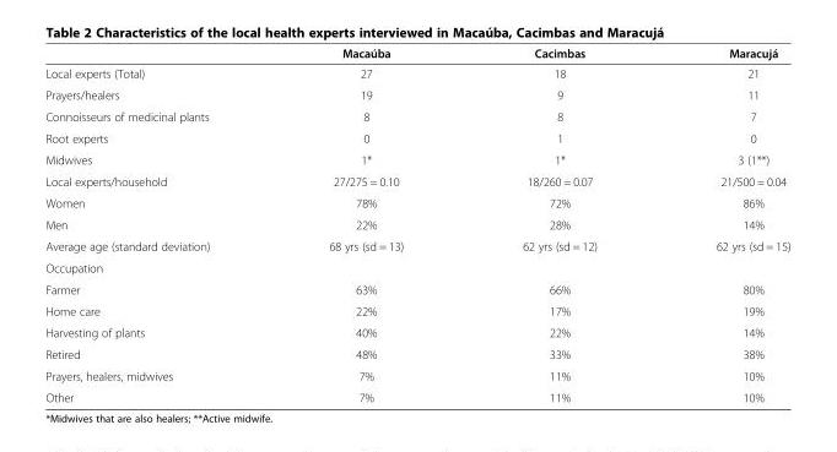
<table><thead><tr><td></td><td>Macaúba</td><td>Cacimbas</td><td>Maracujá</td></tr></thead><tbody><tr><td>Local experts (Total)</td><td>27</td><td>18</td><td>21</td></tr><tr><td>Prayers/healers</td><td>19</td><td>9</td><td>11</td></tr><tr><td>Connoisseurs of medicinal plants</td><td>8</td><td>8</td><td>7</td></tr><tr><td>Root experts</td><td>0</td><td>1</td><td>0</td></tr><tr><td>Midwives</td><td>1*</td><td>1*</td><td>3 (1**)</td></tr><tr><td>Local experts/household</td><td>27/275 = 0.10</td><td>18/260 = 0.07</td><td>21/500 = 0.04</td></tr><tr><td>Women</td><td>78%</td><td>72%</td><td>86%</td></tr><tr><td>Men</td><td>22%</td><td>28%</td><td>14%</td></tr><tr><td>Average age (standard deviation)</td><td>68 yrs (sd = 13)</td><td>62 yrs (sd = 12)</td><td>62 yrs (sd = 15)</td></tr><tr><td colspan="4">Occupation</td></tr><tr><td>Farmer</td><td>63%</td><td>66%</td><td>80%</td></tr><tr><td>Home care</td><td>22%</td><td>17%</td><td>19%</td></tr><tr><td>Harvesting of plants</td><td>40%</td><td>22%</td><td>14%</td></tr><tr><td>Retired</td><td>48%</td><td>33%</td><td>38%</td></tr><tr><td>Prayers, healers, midwives</td><td>7%</td><td>11%</td><td>10%</td></tr><tr><td>Other</td><td>7%</td><td>11%</td><td>10%</td></tr></tbody></table>